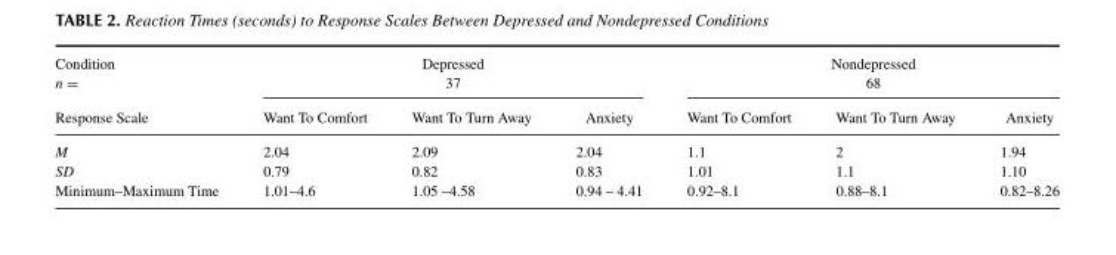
<table><thead><tr><td rowspan="3">Condition n = Response Scale</td><td rowspan="2" colspan="3">Depressed 37</td><td rowspan="2" colspan="3">Nondepressed 68</td></tr><tr></tr><tr><td>Want To Comfort</td><td>Want To Turn Away</td><td>Anxiety</td><td>Want To Comfort</td><td>Want To Turn Away</td><td>Anxiety</td></tr></thead><tbody><tr><td>M</td><td>2.04</td><td>2.09</td><td>2.04</td><td>1.1</td><td>2</td><td>1.94</td></tr><tr><td>SD</td><td>0.79</td><td>0.82</td><td>0.83</td><td>1.01</td><td>1.1</td><td>1.10</td></tr><tr><td>Minimum–Maximum Time</td><td>1.01–4.6</td><td>1.05 –4.58</td><td>0.94 – 4.41</td><td>0.92–8.1</td><td>0.88–8.1</td><td>0.82–8.26</td></tr></tbody></table>